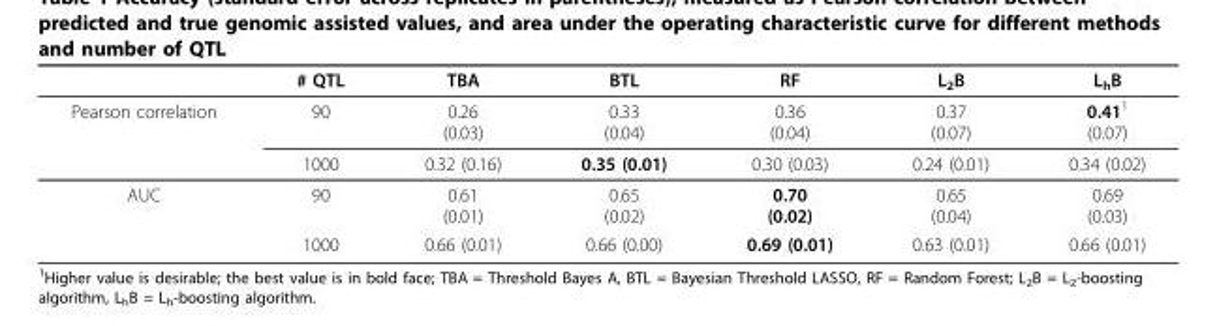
<table><thead><tr><td></td><td># QTL</td><td>TBA</td><td>BTL</td><td>RF</td><td>L<sub>2</sub>B</td><td>L<sub>h</sub>B</td></tr></thead><tbody><tr><td rowspan="2">Pearson correlation</td><td>90</td><td>0.26 (0.03)</td><td>0.33 (0.04)</td><td>0.36 (0.04)</td><td>0.37 (0.07)</td><td>0.41<sup>1</sup> (0.07)</td></tr><tr><td>1000</td><td>0.32 (0.16)</td><td>0.35 (0.01)</td><td>0.30 (0.03)</td><td>0.24 (0.01)</td><td>0.34 (0.02)</td></tr><tr><td rowspan="2">AUC</td><td>90</td><td>0.61 (0.01)</td><td>0.65 (0.02)</td><td>0.70 (0.02)</td><td>0.65 (0.04)</td><td>0.69 (0.03)</td></tr><tr><td>1000</td><td>0.66 (0.01)</td><td>0.66 (0.00)</td><td>0.69 (0.01)</td><td>0.63 (0.01)</td><td>0.66 (0.01)</td></tr></tbody></table>